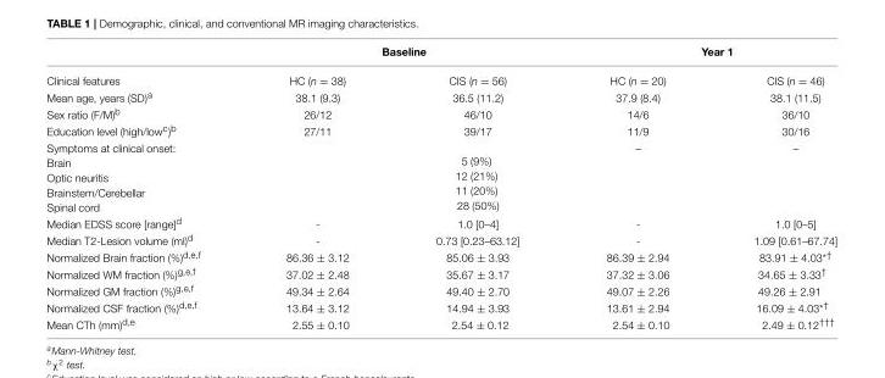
<table><thead><tr><td rowspan="2">Clinical features</td><td colspan="2">Baseline</td><td colspan="2">Year 1</td></tr><tr><td>HC (n = 38)</td><td>CIS (n = 56)</td><td>HC (n = 20)</td><td>CIS (n = 46)</td></tr></thead><tbody><tr><td>Mean age, years (SD)<sup>a</sup></td><td>38.1 (9.3)</td><td>36.5 (11.2)</td><td>37.9 (8.4)</td><td>38.1 (11.5)</td></tr><tr><td>Sex ratio (F/M)<sup>b</sup></td><td>26/12</td><td>46/10</td><td>14/6</td><td>36/10</td></tr><tr><td>Education level (high/low<sup>c</sup>)<sup>b</sup></td><td>27/11</td><td>39/17</td><td>11/9</td><td>30/16</td></tr><tr><td>Symptoms at clinical onset: Brain Optic neuritis Brainstem/Cerebellar Spinal cord</td><td></td><td>5 (9%) 12 (21%) 11 (20%) 28 (50%)</td><td>–</td><td>–</td></tr><tr><td>Median EDSS score [range]<sup>d</sup></td><td>-</td><td>1.0 [0–4]</td><td>-</td><td>1.0 [0–5]</td></tr><tr><td>Median T2-Lesion volume (ml)<sup>d</sup></td><td>-</td><td>0.73 [0.23–63.12]</td><td>-</td><td>1.09 [0.61–67.74]</td></tr><tr><td>Normalized Brain fraction (%)<sup>d,e,f</sup></td><td>86.36 ± 3.12</td><td>85.06 ± 3.93</td><td>86.39 ± 2.94</td><td>83.91 ± 4.03<sup>*†</sup></td></tr><tr><td>Normalized WM fraction (%)<sup>g,e,f</sup></td><td>37.02 ± 2.48</td><td>35.67 ± 3.17</td><td>37.32 ± 3.06</td><td>34.65 ± 3.33<sup>†</sup></td></tr><tr><td>Normalized GM fraction (%)<sup>g,e,f</sup></td><td>49.34 ± 2.64</td><td>49.40 ± 2.70</td><td>49.07 ± 2.26</td><td>49.26 ± 2.91</td></tr><tr><td>Normalized CSF fraction (%)<sup>d,e,f</sup></td><td>13.64 ± 3.12</td><td>14.94 ± 3.93</td><td>13.61 ± 2.94</td><td>16.09 ± 4.03<sup>*†</sup></td></tr><tr><td>Mean CTh (mm)<sup>d,e</sup></td><td>2.55 ± 0.10</td><td>2.54 ± 0.12</td><td>2.54 ± 0.10</td><td>2.49 ± 0.12<sup>†††</sup></td></tr></tbody></table>